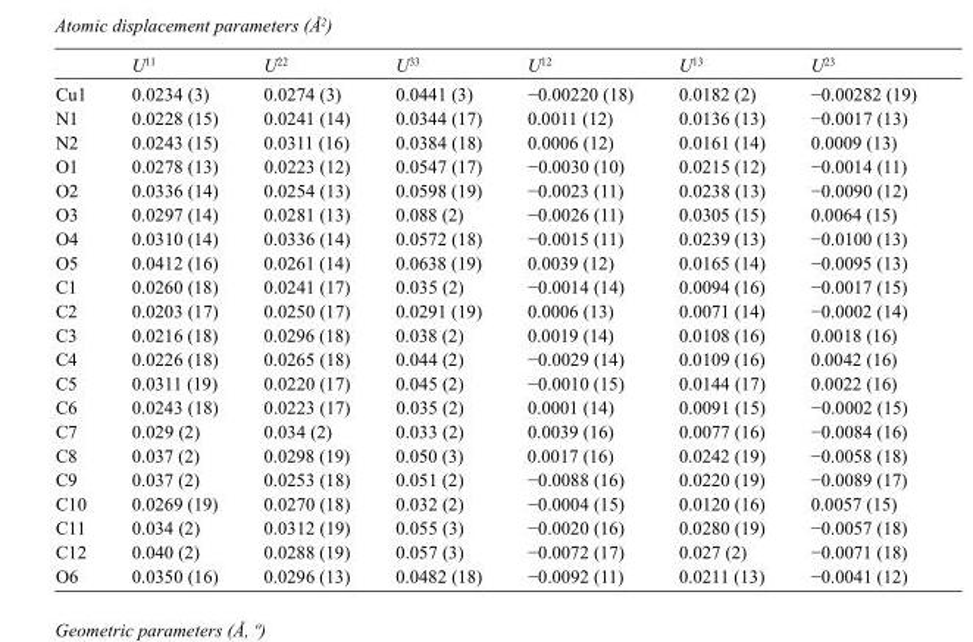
<table><thead><tr><td></td><td>U<sup>11</sup></td><td>U<sup>22</sup></td><td>U<sup>33</sup></td><td>U<sup>12</sup></td><td>U<sup>13</sup></td><td>U<sup>23</sup></td></tr></thead><tbody><tr><td>Cu1</td><td>0.0234 (3)</td><td>0.0274 (3)</td><td>0.0441 (3)</td><td>−0.00220 (18)</td><td>0.0182 (2)</td><td>−0.00282 (19)</td></tr><tr><td>N1</td><td>0.0228 (15)</td><td>0.0241 (14)</td><td>0.0344 (17)</td><td>0.0011 (12)</td><td>0.0136 (13)</td><td>−0.0017 (13)</td></tr><tr><td>N2</td><td>0.0243 (15)</td><td>0.0311 (16)</td><td>0.0384 (18)</td><td>0.0006 (12)</td><td>0.0161 (14)</td><td>0.0009 (13)</td></tr><tr><td>O1</td><td>0.0278 (13)</td><td>0.0223 (12)</td><td>0.0547 (17)</td><td>−0.0030 (10)</td><td>0.0215 (12)</td><td>−0.0014 (11)</td></tr><tr><td>O2</td><td>0.0336 (14)</td><td>0.0254 (13)</td><td>0.0598 (19)</td><td>−0.0023 (11)</td><td>0.0238 (13)</td><td>−0.0090 (12)</td></tr><tr><td>O3</td><td>0.0297 (14)</td><td>0.0281 (13)</td><td>0.088 (2)</td><td>−0.0026 (11)</td><td>0.0305 (15)</td><td>0.0064 (15)</td></tr><tr><td>O4</td><td>0.0310 (14)</td><td>0.0336 (14)</td><td>0.0572 (18)</td><td>−0.0015 (11)</td><td>0.0239 (13)</td><td>−0.0100 (13)</td></tr><tr><td>O5</td><td>0.0412 (16)</td><td>0.0261 (14)</td><td>0.0638 (19)</td><td>0.0039 (12)</td><td>0.0165 (14)</td><td>−0.0095 (13)</td></tr><tr><td>C1</td><td>0.0260 (18)</td><td>0.0241 (17)</td><td>0.035 (2)</td><td>−0.0014 (14)</td><td>0.0094 (16)</td><td>−0.0017 (15)</td></tr><tr><td>C2</td><td>0.0203 (17)</td><td>0.0250 (17)</td><td>0.0291 (19)</td><td>0.0006 (13)</td><td>0.0071 (14)</td><td>−0.0002 (14)</td></tr><tr><td>C3</td><td>0.0216 (18)</td><td>0.0296 (18)</td><td>0.038 (2)</td><td>0.0019 (14)</td><td>0.0108 (16)</td><td>0.0018 (16)</td></tr><tr><td>C4</td><td>0.0226 (18)</td><td>0.0265 (18)</td><td>0.044 (2)</td><td>−0.0029 (14)</td><td>0.0109 (16)</td><td>0.0042 (16)</td></tr><tr><td>C5</td><td>0.0311 (19)</td><td>0.0220 (17)</td><td>0.045 (2)</td><td>−0.0010 (15)</td><td>0.0144 (17)</td><td>0.0022 (16)</td></tr><tr><td>C6</td><td>0.0243 (18)</td><td>0.0223 (17)</td><td>0.035 (2)</td><td>0.0001 (14)</td><td>0.0091 (15)</td><td>−0.0002 (15)</td></tr><tr><td>C7</td><td>0.029 (2)</td><td>0.034 (2)</td><td>0.033 (2)</td><td>0.0039 (16)</td><td>0.0077 (16)</td><td>−0.0084 (16)</td></tr><tr><td>C8</td><td>0.037 (2)</td><td>0.0298 (19)</td><td>0.050 (3)</td><td>0.0017 (16)</td><td>0.0242 (19)</td><td>−0.0058 (18)</td></tr><tr><td>C9</td><td>0.037 (2)</td><td>0.0253 (18)</td><td>0.051 (2)</td><td>−0.0088 (16)</td><td>0.0220 (19)</td><td>−0.0089 (17)</td></tr><tr><td>C10</td><td>0.0269 (19)</td><td>0.0270 (18)</td><td>0.032 (2)</td><td>−0.0004 (15)</td><td>0.0120 (16)</td><td>0.0057 (15)</td></tr><tr><td>C11</td><td>0.034 (2)</td><td>0.0312 (19)</td><td>0.055 (3)</td><td>−0.0020 (16)</td><td>0.0280 (19)</td><td>−0.0057 (18)</td></tr><tr><td>C12</td><td>0.040 (2)</td><td>0.0288 (19)</td><td>0.057 (3)</td><td>−0.0072 (17)</td><td>0.027 (2)</td><td>−0.0071 (18)</td></tr><tr><td>O6</td><td>0.0350 (16)</td><td>0.0296 (13)</td><td>0.0482 (18)</td><td>−0.0092 (11)</td><td>0.0211 (13)</td><td>−0.0041 (12)</td></tr></tbody></table>